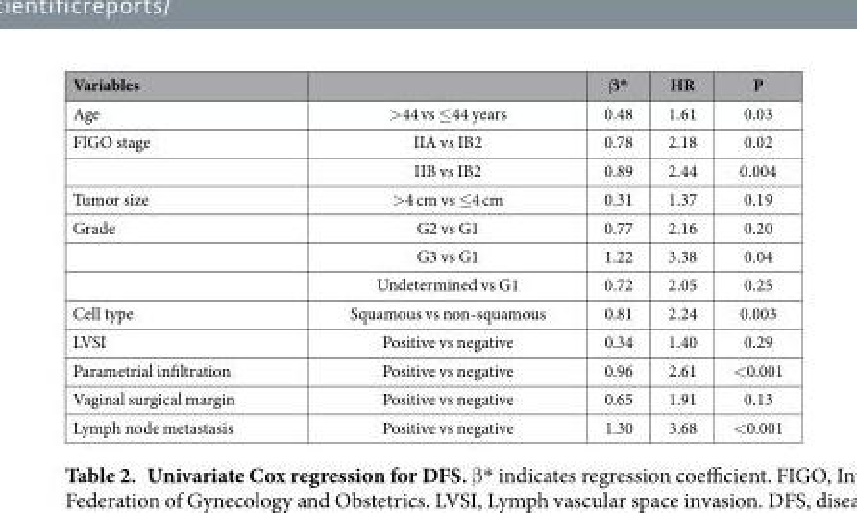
<table><thead><tr><td>Variables</td><td></td><td>β*</td><td>HR</td><td>P</td></tr></thead><tbody><tr><td>Age</td><td>&gt;44 vs ≤44 years</td><td>0.48</td><td>1.61</td><td>0.03</td></tr><tr><td rowspan="2">FIGO stage</td><td>IIA vs IB2</td><td>0.78</td><td>2.18</td><td>0.02</td></tr><tr><td>IIB vs IB2</td><td>0.89</td><td>2.44</td><td>0.004</td></tr><tr><td>Tumor size</td><td>&gt;4 cm vs ≤4 cm</td><td>0.31</td><td>1.37</td><td>0.19</td></tr><tr><td rowspan="3">Grade</td><td>G2 vs G1</td><td>0.77</td><td>2.16</td><td>0.20</td></tr><tr><td>G3 vs G1</td><td>1.22</td><td>3.38</td><td>0.04</td></tr><tr><td>Undetermined vs G1</td><td>0.72</td><td>2.05</td><td>0.25</td></tr><tr><td>Cell type</td><td>Squamous vs non-squamous</td><td>0.81</td><td>2.24</td><td>0.003</td></tr><tr><td>LVSI</td><td>Positive vs negative</td><td>0.34</td><td>1.40</td><td>0.29</td></tr><tr><td>Parametrial infiltration</td><td>Positive vs negative</td><td>0.96</td><td>2.61</td><td>&lt;0.001</td></tr><tr><td>Vaginal surgical margin</td><td>Positive vs negative</td><td>0.65</td><td>1.91</td><td>0.13</td></tr><tr><td>Lymph node metastasis</td><td>Positive vs negative</td><td>1.30</td><td>3.68</td><td>&lt;0.001</td></tr></tbody></table>